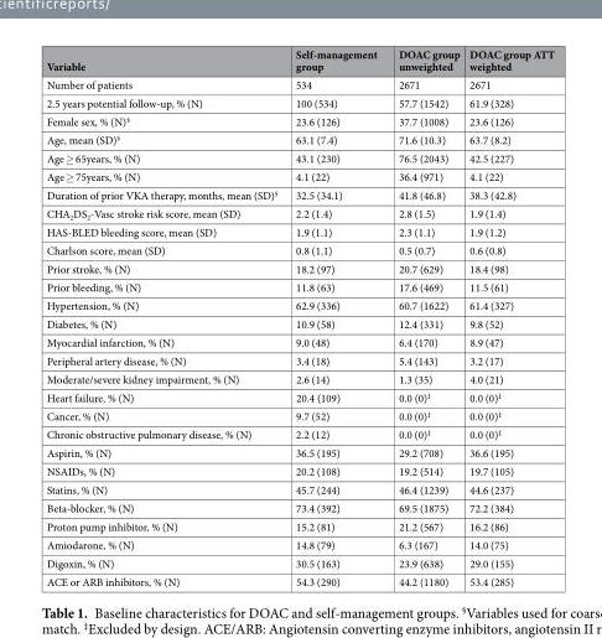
<table><thead><tr><td>Variable</td><td>Self-management group</td><td>DOAC group unweighted</td><td>DOAC group ATT weighted</td></tr></thead><tbody><tr><td>Number of patients</td><td>534</td><td>2671</td><td>2671</td></tr><tr><td>2.5 years potential follow-up, % (N)</td><td>100 (534)</td><td>57.7 (1542)</td><td>61.9 (328)</td></tr><tr><td>Female sex, % (N)<sup>§</sup></td><td>23.6 (126)</td><td>37.7 (1008)</td><td>23.6 (126)</td></tr><tr><td>Age, mean (SD)<sup>§</sup></td><td>63.1 (7.4)</td><td>71.6 (10.3)</td><td>63.7 (8.2)</td></tr><tr><td>Age ≥ 65years, % (N)</td><td>43.1 (230)</td><td>76.5 (2043)</td><td>42.5 (227)</td></tr><tr><td>Age ≥ 75years, % (N)</td><td>4.1 (22)</td><td>36.4 (971)</td><td>4.1 (22)</td></tr><tr><td>Duration of prior VKA therapy, months, mean (SD)<sup>§</sup></td><td>32.5 (34.1)</td><td>41.8 (46.8)</td><td>38.3 (42.8)</td></tr><tr><td>CHA<sub>2</sub>DS<sub>2</sub>-Vasc stroke risk score, mean (SD)</td><td>2.2 (1.4)</td><td>2.8 (1.5)</td><td>1.9 (1.4)</td></tr><tr><td>HAS-BLED bleeding score, mean (SD)</td><td>1.9 (1.1)</td><td>2.3 (1.1)</td><td>1.9 (1.2)</td></tr><tr><td>Charlson score, mean (SD)</td><td>0.8 (1.1)</td><td>0.5 (0.7)</td><td>0.6 (0.8)</td></tr><tr><td>Prior stroke, % (N)</td><td>18.2 (97)</td><td>20.7 (629)</td><td>18.4 (98)</td></tr><tr><td>Prior bleeding, % (N)</td><td>11.8 (63)</td><td>17.6 (469)</td><td>11.5 (61)</td></tr><tr><td>Hypertension, % (N)</td><td>62.9 (336)</td><td>60.7 (1622)</td><td>61.4 (327)</td></tr><tr><td>Diabetes, % (N)</td><td>10.9 (58)</td><td>12.4 (331)</td><td>9.8 (52)</td></tr><tr><td>Myocardial infarction, % (N)</td><td>9.0 (48)</td><td>6.4 (170)</td><td>8.9 (47)</td></tr><tr><td>Peripheral artery disease, % (N)</td><td>3.4 (18)</td><td>5.4 (143)</td><td>3.2 (17)</td></tr><tr><td>Moderate/severe kidney impairment, % (N)</td><td>2.6 (14)</td><td>1.3 (35)</td><td>4.0 (21)</td></tr><tr><td>Heart failure, % (N)</td><td>20.4 (109)</td><td>0.0 (0)<sup>⤈</sup></td><td>0.0 (0)<sup>⤈</sup></td></tr><tr><td>Cancer, % (N)</td><td>9.7 (52)</td><td>0.0 (0)<sup>⤈</sup></td><td>0.0 (0)<sup>⤈</sup></td></tr><tr><td>Chronic obstructive pulmonary disease, % (N)</td><td>2.2 (12)</td><td>0.0 (0)<sup>⤈</sup></td><td>0.0 (0)<sup>⤈</sup></td></tr><tr><td>Aspirin, % (N)</td><td>36.5 (195)</td><td>29.2 (708)</td><td>36.6 (195)</td></tr><tr><td>NSAIDs, % (N)</td><td>20.2 (108)</td><td>19.2 (514)</td><td>19.7 (105)</td></tr><tr><td>Statins, % (N)</td><td>45.7 (244)</td><td>46.4 (1239)</td><td>44.6 (237)</td></tr><tr><td>Beta-blocker, % (N)</td><td>73.4 (392)</td><td>69.5 (1875)</td><td>72.2 (384)</td></tr><tr><td>Proton pump inhibitor, % (N)</td><td>15.2 (81)</td><td>21.2 (567)</td><td>16.2 (86)</td></tr><tr><td>Amiodarone, % (N)</td><td>14.8 (79)</td><td>6.3 (167)</td><td>14.0 (75)</td></tr><tr><td>Digoxin, % (N)</td><td>30.5 (163)</td><td>23.9 (638)</td><td>29.0 (155)</td></tr><tr><td>ACE or ARB inhibitors, % (N)</td><td>54.3 (290)</td><td>44.2 (1180)</td><td>53.4 (285)</td></tr></tbody></table>